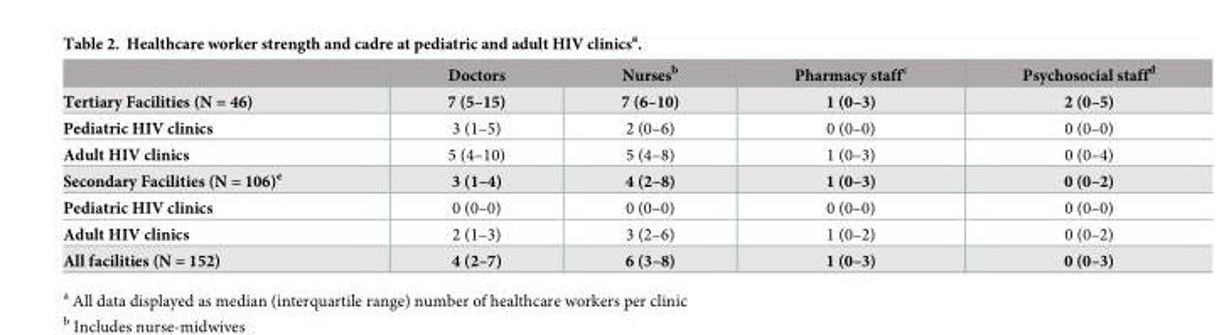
<table><thead><tr><td></td><td>Doctors</td><td>Nurses<sup>b</sup></td><td>Pharmacy staff<sup>c</sup></td><td>Psychosocial staff<sup>d</sup></td></tr></thead><tbody><tr><td>Tertiary Facilities (N = 46)</td><td>7 (5–15)</td><td>7 (6–10)</td><td>1 (0–3)</td><td>2 (0–5)</td></tr><tr><td>Pediatric HIV clinics</td><td>3 (1–5)</td><td>2 (0–6)</td><td>0 (0–0)</td><td>0 (0–0)</td></tr><tr><td>Adult HIV clinics</td><td>5 (4–10)</td><td>5 (4–8)</td><td>1 (0–3)</td><td>0 (0–4)</td></tr><tr><td>Secondary Facilities (N = 106)<sup>e</sup></td><td>3 (1–4)</td><td>4 (2–8)</td><td>1 (0–3)</td><td>0 (0–2)</td></tr><tr><td>Pediatric HIV clinics</td><td>0 (0–0)</td><td>0 (0–0)</td><td>0 (0–0)</td><td>0 (0–0)</td></tr><tr><td>Adult HIV clinics</td><td>2 (1–3)</td><td>3 (2–6)</td><td>1 (0–2)</td><td>0 (0–2)</td></tr><tr><td>All facilities (N = 152)</td><td>4 (2–7)</td><td>6 (3–8)</td><td>1 (0–3)</td><td>0 (0–3)</td></tr></tbody></table>